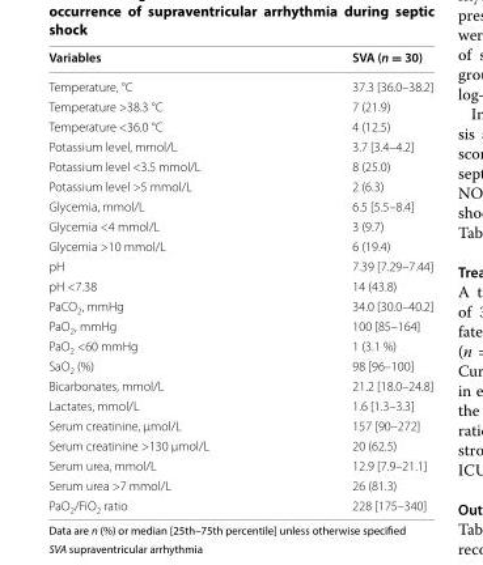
<table><thead><tr><td>Variables</td><td>SVA (n = 30)</td></tr></thead><tbody><tr><td>Temperature, °C</td><td>37.3 [36.0–38.2]</td></tr><tr><td>Temperature &gt;38.3 °C</td><td>7 (21.9)</td></tr><tr><td>Temperature &lt;36.0 °C</td><td>4 (12.5)</td></tr><tr><td>Potassium level, mmol/L</td><td>3.7 [3.4–4.2]</td></tr><tr><td>Potassium level &lt;3.5 mmol/L</td><td>8 (25.0)</td></tr><tr><td>Potassium level &gt;5 mmol/L</td><td>2 (6.3)</td></tr><tr><td>Glycemia, mmol/L</td><td>6.5 [5.5–8.4]</td></tr><tr><td>Glycemia &lt;4 mmol/L</td><td>3 (9.7)</td></tr><tr><td>Glycemia &gt;10 mmol/L</td><td>6 (19.4)</td></tr><tr><td>pH</td><td>7.39 [7.29–7.44]</td></tr><tr><td>pH &lt;7.38</td><td>14 (43.8)</td></tr><tr><td>PaCO<sub>2</sub>, mmHg</td><td>34.0 [30.0–40.2]</td></tr><tr><td>PaO<sub>2</sub>, mmHg</td><td>100 [85–164]</td></tr><tr><td>PaO<sub>2</sub> &lt;60 mmHg</td><td>1 (3.1 %)</td></tr><tr><td>SaO<sub>2</sub> (%)</td><td>98 [96–100]</td></tr><tr><td>Bicarbonates, mmol/L</td><td>21.2 [18.0–24.8]</td></tr><tr><td>Lactates, mmol/L</td><td>1.6 [1.3–3.3]</td></tr><tr><td>Serum creatinine, µmol/L</td><td>157 [90–272]</td></tr><tr><td>Serum creatinine &gt;130 µmol/L</td><td>20 (62.5)</td></tr><tr><td>Serum urea, mmol/L</td><td>12.9 [7.9–21.1]</td></tr><tr><td>Serum urea &gt;7 mmol/L</td><td>26 (81.3)</td></tr><tr><td>PaO<sub>2</sub>/FiO<sub>2</sub> ratio</td><td>228 [175–340]</td></tr></tbody></table>